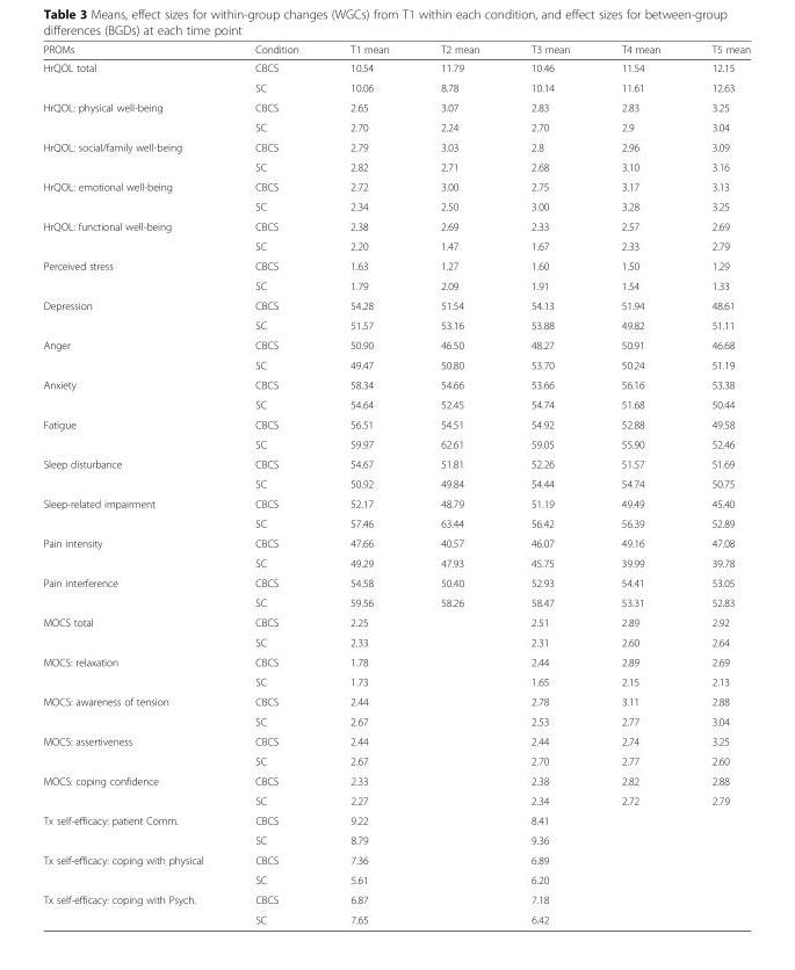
<table><thead><tr><td>PROMs</td><td>Condition</td><td>T1 mean</td><td>T2 mean</td><td>T3 mean</td><td>T4 mean</td><td>T5 mean</td></tr></thead><tbody><tr><td rowspan="2">HrQOL total</td><td>CBCS</td><td>10.54</td><td>11.79</td><td>10.46</td><td>11.54</td><td>12.15</td></tr><tr><td>SC</td><td>10.06</td><td>8.78</td><td>10.14</td><td>11.61</td><td>12.63</td></tr><tr><td rowspan="2">HrQOL: physical well-being</td><td>CBCS</td><td>2.65</td><td>3.07</td><td>2.83</td><td>2.83</td><td>3.25</td></tr><tr><td>SC</td><td>2.70</td><td>2.24</td><td>2.70</td><td>2.9</td><td>3.04</td></tr><tr><td rowspan="2">HrQOL: social/family well-being</td><td>CBCS</td><td>2.79</td><td>3.03</td><td>2.8</td><td>2.96</td><td>3.09</td></tr><tr><td>SC</td><td>2.82</td><td>2.71</td><td>2.68</td><td>3.10</td><td>3.16</td></tr><tr><td rowspan="2">HrQOL: emotional well-being</td><td>CBCS</td><td>2.72</td><td>3.00</td><td>2.75</td><td>3.17</td><td>3.13</td></tr><tr><td>SC</td><td>2.34</td><td>2.50</td><td>3.00</td><td>3.28</td><td>3.25</td></tr><tr><td rowspan="2">HrQOL: functional well-being</td><td>CBCS</td><td>2.38</td><td>2.69</td><td>2.33</td><td>2.57</td><td>2.69</td></tr><tr><td>SC</td><td>2.20</td><td>1.47</td><td>1.67</td><td>2.33</td><td>2.79</td></tr><tr><td rowspan="2">Perceived stress</td><td>CBCS</td><td>1.63</td><td>1.27</td><td>1.60</td><td>1.50</td><td>1.29</td></tr><tr><td>SC</td><td>1.79</td><td>2.09</td><td>1.91</td><td>1.54</td><td>1.33</td></tr><tr><td rowspan="2">Depression</td><td>CBCS</td><td>54.28</td><td>51.54</td><td>54.13</td><td>51.94</td><td>48.61</td></tr><tr><td>SC</td><td>51.57</td><td>53.16</td><td>53.88</td><td>49.82</td><td>51.11</td></tr><tr><td rowspan="2">Anger</td><td>CBCS</td><td>50.90</td><td>46.50</td><td>48.27</td><td>50.91</td><td>46.68</td></tr><tr><td>SC</td><td>49.47</td><td>50.80</td><td>53.70</td><td>50.24</td><td>51.19</td></tr><tr><td rowspan="2">Anxiety</td><td>CBCS</td><td>58.34</td><td>54.66</td><td>53.66</td><td>56.16</td><td>53.38</td></tr><tr><td>SC</td><td>54.64</td><td>52.45</td><td>54.74</td><td>51.68</td><td>50.44</td></tr><tr><td rowspan="2">Fatigue</td><td>CBCS</td><td>56.51</td><td>54.51</td><td>54.92</td><td>52.88</td><td>49.58</td></tr><tr><td>SC</td><td>59.97</td><td>62.61</td><td>59.05</td><td>55.90</td><td>52.46</td></tr><tr><td rowspan="2">Sleep disturbance</td><td>CBCS</td><td>54.67</td><td>51.81</td><td>52.26</td><td>51.57</td><td>51.69</td></tr><tr><td>SC</td><td>50.92</td><td>49.84</td><td>54.44</td><td>54.74</td><td>50.75</td></tr><tr><td rowspan="2">Sleep-related impairment</td><td>CBCS</td><td>52.17</td><td>48.79</td><td>51.19</td><td>49.49</td><td>45.40</td></tr><tr><td>SC</td><td>57.46</td><td>63.44</td><td>56.42</td><td>56.39</td><td>52.89</td></tr><tr><td rowspan="2">Pain intensity</td><td>CBCS</td><td>47.66</td><td>40.57</td><td>46.07</td><td>49.16</td><td>47.08</td></tr><tr><td>SC</td><td>49.29</td><td>47.93</td><td>45.75</td><td>39.99</td><td>39.78</td></tr><tr><td rowspan="2">Pain interference</td><td>CBCS</td><td>54.58</td><td>50.40</td><td>52.93</td><td>54.41</td><td>53.05</td></tr><tr><td>SC</td><td>59.56</td><td>58.26</td><td>58.47</td><td>53.31</td><td>52.83</td></tr><tr><td rowspan="2">MOCS total</td><td>CBCS</td><td>2.25</td><td></td><td>2.51</td><td>2.89</td><td>2.92</td></tr><tr><td>SC</td><td>2.33</td><td></td><td>2.31</td><td>2.60</td><td>2.64</td></tr><tr><td rowspan="2">MOCS: relaxation</td><td>CBCS</td><td>1.78</td><td></td><td>2.44</td><td>2.89</td><td>2.69</td></tr><tr><td>SC</td><td>1.73</td><td></td><td>1.65</td><td>2.15</td><td>2.13</td></tr><tr><td rowspan="2">MOCS: awareness of tension</td><td>CBCS</td><td>2.44</td><td></td><td>2.78</td><td>3.11</td><td>2.88</td></tr><tr><td>SC</td><td>2.67</td><td></td><td>2.53</td><td>2.77</td><td>3.04</td></tr><tr><td rowspan="2">MOCS: assertiveness</td><td>CBCS</td><td>2.44</td><td></td><td>2.44</td><td>2.74</td><td>3.25</td></tr><tr><td>SC</td><td>2.67</td><td></td><td>2.70</td><td>2.77</td><td>2.60</td></tr><tr><td rowspan="2">MOCS: coping confidence</td><td>CBCS</td><td>2.33</td><td></td><td>2.38</td><td>2.82</td><td>2.88</td></tr><tr><td>SC</td><td>2.27</td><td></td><td>2.34</td><td>2.72</td><td>2.79</td></tr><tr><td rowspan="2">Tx self-efficacy: patient Comm.</td><td>CBCS</td><td>9.22</td><td></td><td>8.41</td><td></td><td></td></tr><tr><td>SC</td><td>8.79</td><td></td><td>9.36</td><td></td><td></td></tr><tr><td rowspan="2">Tx self-efficacy: coping with physical</td><td>CBCS</td><td>7.36</td><td></td><td>6.89</td><td></td><td></td></tr><tr><td>SC</td><td>5.61</td><td></td><td>6.20</td><td></td><td></td></tr><tr><td rowspan="2">Tx self-efficacy: coping with Psych.</td><td>CBCS</td><td>6.87</td><td></td><td>7.18</td><td></td><td></td></tr><tr><td>SC</td><td>7.65</td><td></td><td>6.42</td><td></td><td></td></tr></tbody></table>